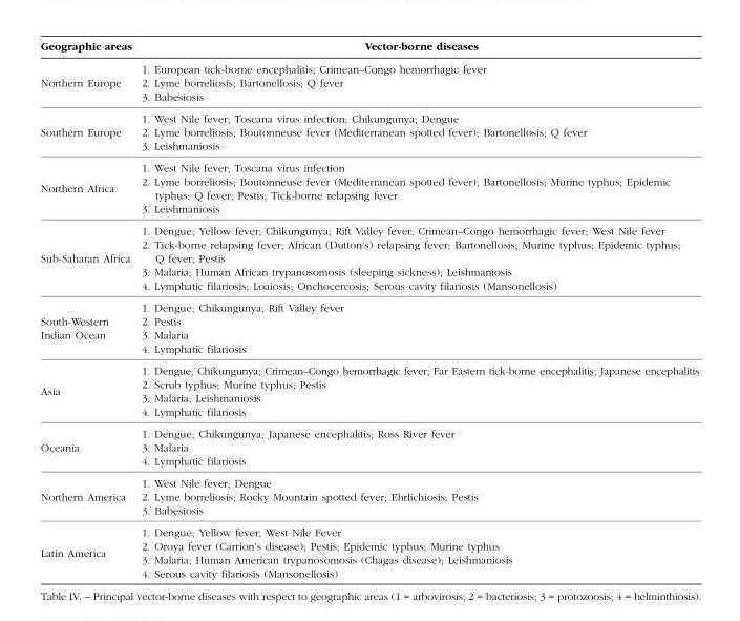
<table><thead><tr><td>Geographic areas</td><td>Vector-borne diseases</td></tr></thead><tbody><tr><td></td><td>1. European tick-borne encephalitis; Crimean–Congo hemorrhagic fever</td></tr><tr><td rowspan="3">Northern Europe</td><td>2. Lyme borreliosis; Bartonellosis; Q fever</td></tr><tr><td>3. Babesiosis</td></tr><tr><td>1. West Nile fever; Toscana virus infection; Chikungunya; Dengue</td></tr><tr><td rowspan="3">Southern Europe</td><td>2. Lyme borreliosis; Boutonneuse fever (Mediterranean spotted fever); Bartonellosis; Q fever</td></tr><tr><td>3. Leishmaniosis</td></tr><tr><td>1. West Nile fever; Toscana virus infection</td></tr><tr><td rowspan="3">Northern Africa</td><td>2. Lyme borreliosis; Boutonneuse fever (Mediterranean spotted fever); Bartonellosis; Murine typhus; Epidemic typhus; Q fever; Pestis; Tick-borne relapsing fever</td></tr><tr><td>3. Leishmaniosis</td></tr><tr><td>1. Dengue; Yellow fever; Chikungunya; Rift Valley fever; Crimean–Congo hemorrhagic fever; West Nile fever</td></tr><tr><td rowspan="4">Sub-Saharan Africa</td><td>2. Tick-borne relapsing fever; African (Dutton’s) relapsing fever; Bartonellosis; Murine typhus; Epidemic typhus; Q fever; Pestis</td></tr><tr><td>3. Malaria; Human African trypanosomosis (sleeping sickness); Leishmaniosis</td></tr><tr><td>4. Lymphatic filariosis; Loaiosis; Onchocercosis; Serous cavity filariosis (Mansonellosis)</td></tr><tr><td>1. Dengue; Chikungunya; Rift Valley fever</td></tr><tr><td rowspan="4">South-Western Indian Ocean</td><td>2. Pestis</td></tr><tr><td>3. Malaria</td></tr><tr><td>4. Lymphatic filariosis</td></tr><tr><td>1. Dengue; Chikungunya; Crimean–Congo hemorrhagic fever; Far Eastern tick-borne encephalitis; Japanese encephalitis</td></tr><tr><td rowspan="4">Asia</td><td>2. Scrub typhus; Murine typhus; Pestis</td></tr><tr><td>3. Malaria; Leishmaniosis</td></tr><tr><td>4. Lymphatic filariosis</td></tr><tr><td>1. Dengue; Chikungunya; Japanese encephalitis; Ross River fever</td></tr><tr><td rowspan="3">Oceania</td><td>3. Malaria</td></tr><tr><td>4. Lymphatic filariosis</td></tr><tr><td>1. West Nile fever; Dengue</td></tr><tr><td rowspan="3">Northern America</td><td>2. Lyme borreliosis; Rocky Mountain spotted fever; Ehrlichiosis; Pestis</td></tr><tr><td>3. Babesiosis</td></tr><tr><td>1. Dengue; Yellow fever; West Nile Fever</td></tr><tr><td rowspan="3">Latin America</td><td>2. Oroya fever (Carrion’s disease); Pestis; Epidemic typhus; Murine typhus</td></tr><tr><td>3. Malaria; Human American trypanosomosis (Chagas disease); Leishmaniosis</td></tr><tr><td>4. Serous cavity filariosis (Mansonellosis)</td></tr></tbody></table>